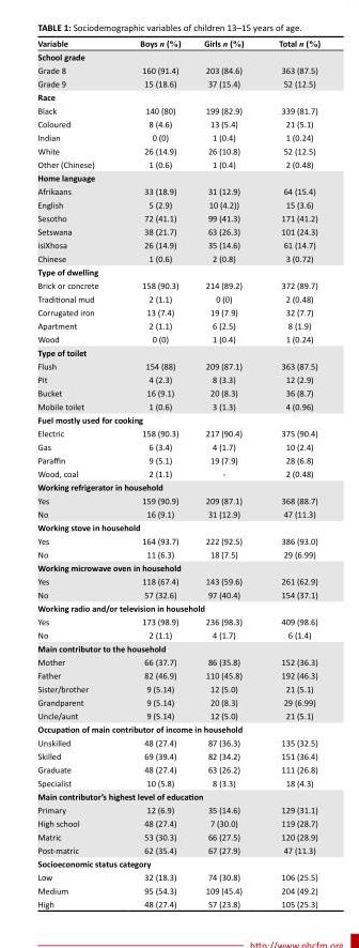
<table><thead><tr><td>Variable</td><td>Boys n (%)</td><td>Girls n (%)</td><td>Total n (%)</td></tr></thead><tbody><tr><td colspan="4">School grade</td></tr><tr><td>Grade 8</td><td>160 (91.4)</td><td>203 (84.6)</td><td>363 (87.5)</td></tr><tr><td>Grade 9</td><td>15 (18.6)</td><td>37 (15.4)</td><td>52 (12.5)</td></tr><tr><td colspan="4">Race</td></tr><tr><td>Black</td><td>140 (80)</td><td>199 (82.9)</td><td>339 (81.7)</td></tr><tr><td>Coloured</td><td>8 (4.6)</td><td>13 (5.4)</td><td>21 (5.1)</td></tr><tr><td>Indian</td><td>0 (0)</td><td>1 (0.4)</td><td>1 (0.24)</td></tr><tr><td>White</td><td>26 (14.9)</td><td>26 (10.8)</td><td>52 (12.5)</td></tr><tr><td>Other (Chinese)</td><td>1 (0.6)</td><td>1 (0.4)</td><td>2 (0.48)</td></tr><tr><td colspan="4">Home language</td></tr><tr><td>Afrikaans</td><td>33 (18.9)</td><td>31 (12.9)</td><td>64 (15.4)</td></tr><tr><td>English</td><td>5 (2.9)</td><td>10 (4.2))</td><td>15 (3.6)</td></tr><tr><td>Sesotho</td><td>72 (41.1)</td><td>99 (41.3)</td><td>171 (41.2)</td></tr><tr><td>Setswana</td><td>38 (21.7)</td><td>63 (26.3)</td><td>101 (24.3)</td></tr><tr><td>isiXhosa</td><td>26 (14.9)</td><td>35 (14.6)</td><td>61 (14.7)</td></tr><tr><td>Chinese</td><td>1 (0.6)</td><td>2 (0.8)</td><td>3 (0.72)</td></tr><tr><td colspan="4">Type of dwelling</td></tr><tr><td>Brick or concrete</td><td>158 (90.3)</td><td>214 (89.2)</td><td>372 (89.7)</td></tr><tr><td>Traditional mud</td><td>2 (1.1)</td><td>0 (0)</td><td>2 (0.48)</td></tr><tr><td>Corrugated iron</td><td>13 (7.4)</td><td>19 (7.9)</td><td>32 (7.7)</td></tr><tr><td>Apartment</td><td>2 (1.1)</td><td>6 (2.5)</td><td>8 (1.9)</td></tr><tr><td>Wood</td><td>0 (0)</td><td>1 (0.4)</td><td>1 (0.24)</td></tr><tr><td colspan="4">Type of toilet</td></tr><tr><td>Flush</td><td>154 (88)</td><td>209 (87.1)</td><td>363 (87.5)</td></tr><tr><td>Pit</td><td>4 (2.3)</td><td>8 (3.3)</td><td>12 (2.9)</td></tr><tr><td>Bucket</td><td>16 (9.1)</td><td>20 (8.3)</td><td>36 (8.7)</td></tr><tr><td>Mobile toilet</td><td>1 (0.6)</td><td>3 (1.3)</td><td>4 (0.96)</td></tr><tr><td colspan="4">Fuel mostly used for cooking</td></tr><tr><td>Electric</td><td>158 (90.3)</td><td>217 (90.4)</td><td>375 (90.4)</td></tr><tr><td>Gas</td><td>6 (3.4)</td><td>4 (1.7)</td><td>10 (2.4)</td></tr><tr><td>Paraffin</td><td>9 (5.1)</td><td>19 (7.9)</td><td>28 (6.8)</td></tr><tr><td>Wood, coal</td><td>2 (1.1)</td><td>-</td><td>2 (0.48)</td></tr><tr><td colspan="4">Working refrigerator in household</td></tr><tr><td>Yes</td><td>159 (90.9)</td><td>209 (87.1)</td><td>368 (88.7)</td></tr><tr><td>No</td><td>16 (9.1)</td><td>31 (12.9)</td><td>47 (11.3)</td></tr><tr><td colspan="4">Working stove in household</td></tr><tr><td>Yes</td><td>164 (93.7)</td><td>222 (92.5)</td><td>386 (93.0)</td></tr><tr><td>No</td><td>11 (6.3)</td><td>18 (7.5)</td><td>29 (6.99)</td></tr><tr><td colspan="4">Working microwave oven in household</td></tr><tr><td>Yes</td><td>118 (67.4)</td><td>143 (59.6)</td><td>261 (62.9)</td></tr><tr><td>No</td><td>57 (32.6)</td><td>97 (40.4)</td><td>154 (37.1)</td></tr><tr><td colspan="4">Working radio and/or television in household</td></tr><tr><td>Yes</td><td>173 (98.9)</td><td>236 (98.3)</td><td>409 (98.6)</td></tr><tr><td>No</td><td>2 (1.1)</td><td>4 (1.7)</td><td>6 (1.4)</td></tr><tr><td colspan="4">Main contributor to the household</td></tr><tr><td>Mother</td><td>66 (37.7)</td><td>86 (35.8)</td><td>152 (36.3)</td></tr><tr><td>Father</td><td>82 (46.9)</td><td>110 (45.8)</td><td>192 (46.3)</td></tr><tr><td>Sister/brother</td><td>9 (5.14)</td><td>12 (5.0)</td><td>21 (5.1)</td></tr><tr><td>Grandparent</td><td>9 (5.14)</td><td>20 (8.3)</td><td>29 (6.99)</td></tr><tr><td>Uncle/aunt</td><td>9 (5.14)</td><td>12 (5.0)</td><td>21 (5.1)</td></tr><tr><td colspan="4">Occupation of main contributor of income in household</td></tr><tr><td>Unskilled</td><td>48 (27.4)</td><td>87 (36.3)</td><td>135 (32.5)</td></tr><tr><td>Skilled</td><td>69 (39.4)</td><td>82 (34.2)</td><td>151 (36.4)</td></tr><tr><td>Graduate</td><td>48 (27.4)</td><td>63 (26.2)</td><td>111 (26.8)</td></tr><tr><td>Specialist</td><td>10 (5.8)</td><td>8 (3.3)</td><td>18 (4.3)</td></tr><tr><td colspan="4">Main contributor’s highest level of education</td></tr><tr><td>Primary</td><td>12 (6.9)</td><td>35 (14.6)</td><td>129 (31.1)</td></tr><tr><td>High school</td><td>48 (27.4)</td><td>7 (30.0)</td><td>119 (28.7)</td></tr><tr><td>Matric</td><td>53 (30.3)</td><td>66 (27.5)</td><td>120 (28.9)</td></tr><tr><td>Post-matric</td><td>62 (35.4)</td><td>67 (27.9)</td><td>47 (11.3)</td></tr><tr><td colspan="4">Socioeconomic status category</td></tr><tr><td>Low</td><td>32 (18.3)</td><td>74 (30.8)</td><td>106 (25.5)</td></tr><tr><td>Medium</td><td>95 (54.3)</td><td>109 (45.4)</td><td>204 (49.2)</td></tr><tr><td>High</td><td>48 (27.4)</td><td>57 (23.8)</td><td>105 (25.3)</td></tr></tbody></table>